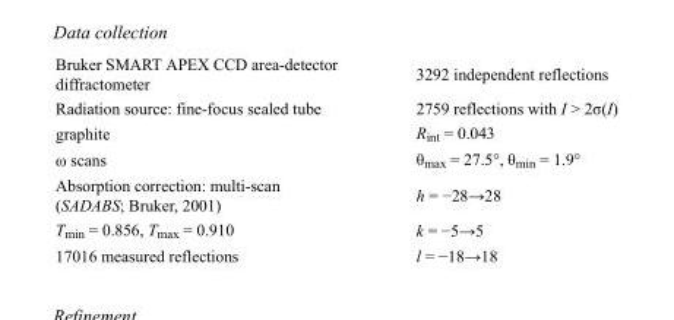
<table><tbody><tr><td>Bruker SMART APEX CCD area-detector diffractometer</td><td>3292 independent reflections</td></tr><tr><td>Radiation source: fine-focus sealed tube</td><td>2759 reflections with I &gt; 2σ(I)</td></tr><tr><td>graphite</td><td>R<sub>int</sub> = 0.043</td></tr><tr><td>ω scans</td><td>θ<sub>max</sub> = 27.5°, θ<sub>min</sub> = 1.9°</td></tr><tr><td>Absorption correction: multi-scan (SADABS; Bruker, 2001)</td><td>h = −28→28</td></tr><tr><td>T<sub>min</sub> = 0.856, T<sub>max</sub> = 0.910</td><td>k = −5→5</td></tr><tr><td>17016 measured reflections</td><td>l = −18→18</td></tr></tbody></table>